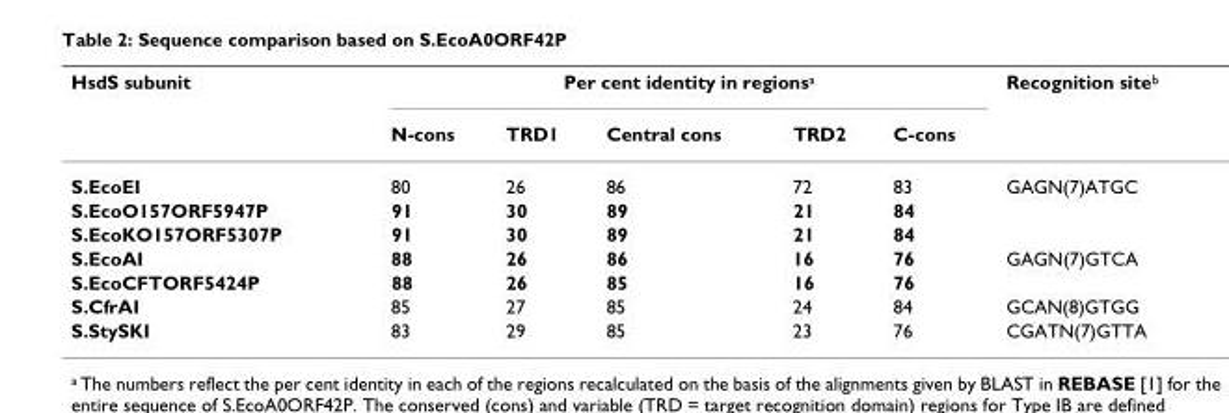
<table><thead><tr><td rowspan="2">HsdS subunit</td><td colspan="5">Per cent identity in regions<sup>a</sup></td><td rowspan="2">Recognition site<sup>b</sup></td></tr><tr><td>N-cons</td><td>TRD1</td><td>Central cons</td><td>TRD2</td><td>C-cons</td></tr></thead><tbody><tr><td>S.EcoEI</td><td>80</td><td>26</td><td>86</td><td>72</td><td>83</td><td>GAGN(7)ATGC</td></tr><tr><td>S.EcoO157ORF5947P</td><td>91</td><td>30</td><td>89</td><td>21</td><td>84</td><td></td></tr><tr><td>S.EcoKO157ORF5307P</td><td>91</td><td>30</td><td>89</td><td>21</td><td>84</td><td></td></tr><tr><td>S.EcoAI</td><td>88</td><td>26</td><td>86</td><td>16</td><td>76</td><td>GAGN(7)GTCA</td></tr><tr><td>S.EcoCFTORF5424P</td><td>88</td><td>26</td><td>85</td><td>16</td><td>76</td><td></td></tr><tr><td>S.CfrAI</td><td>85</td><td>27</td><td>85</td><td>24</td><td>84</td><td>GCAN(8)GTGG</td></tr><tr><td>S.StySKI</td><td>83</td><td>29</td><td>85</td><td>23</td><td>76</td><td>CGATN(7)GTTA</td></tr></tbody></table>